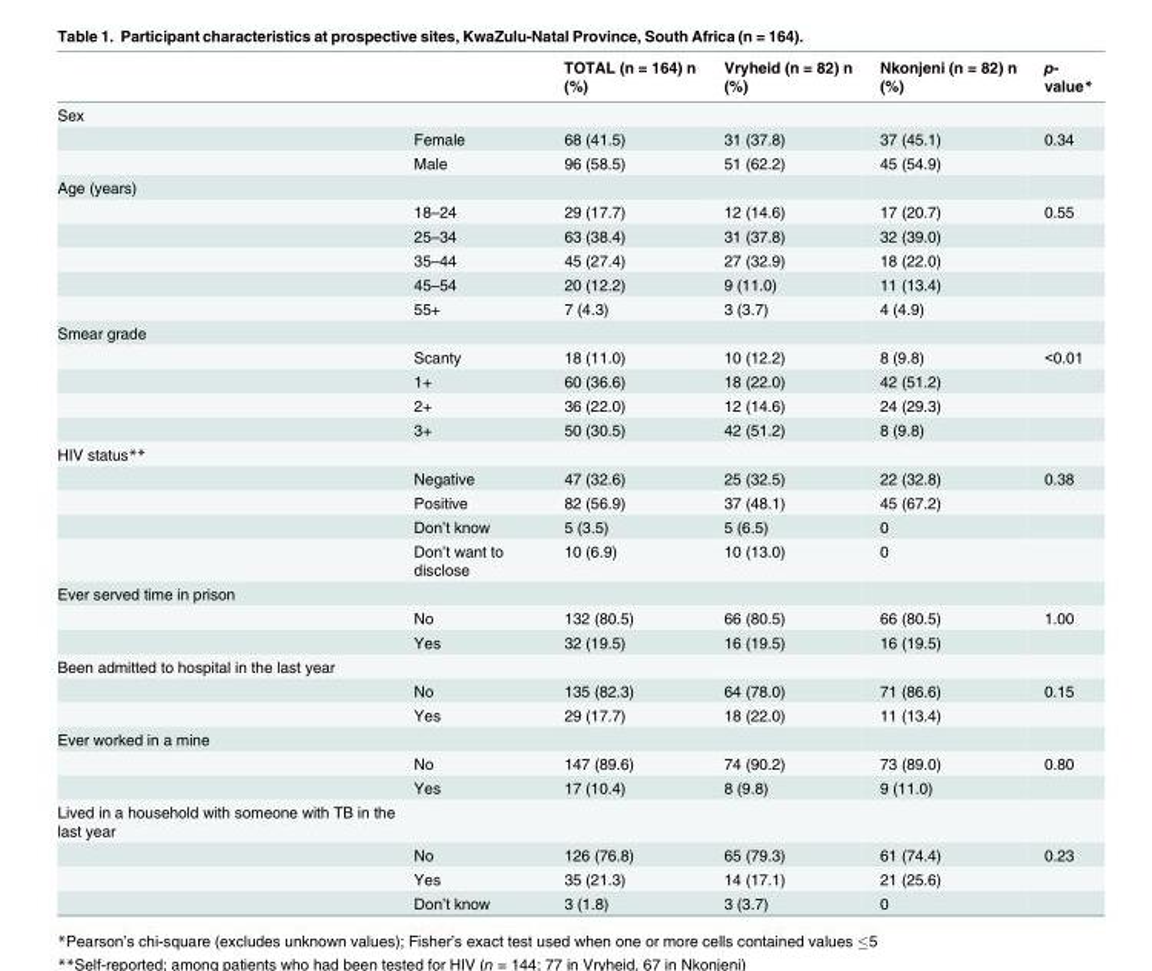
<table><thead><tr><td></td><td></td><td>TOTAL (n = 164) n (%)</td><td>Vryheid (n = 82) n (%)</td><td>Nkonjeni (n = 82) n (%)</td><td>p- value*</td></tr></thead><tbody><tr><td colspan="6">Sex</td></tr><tr><td></td><td>Female</td><td>68 (41.5)</td><td>31 (37.8)</td><td>37 (45.1)</td><td>0.34</td></tr><tr><td></td><td>Male</td><td>96 (58.5)</td><td>51 (62.2)</td><td>45 (54.9)</td><td></td></tr><tr><td colspan="6">Age (years)</td></tr><tr><td></td><td>18–24</td><td>29 (17.7)</td><td>12 (14.6)</td><td>17 (20.7)</td><td>0.55</td></tr><tr><td></td><td>25–34</td><td>63 (38.4)</td><td>31 (37.8)</td><td>32 (39.0)</td><td></td></tr><tr><td></td><td>35–44</td><td>45 (27.4)</td><td>27 (32.9)</td><td>18 (22.0)</td><td></td></tr><tr><td></td><td>45–54</td><td>20 (12.2)</td><td>9 (11.0)</td><td>11 (13.4)</td><td></td></tr><tr><td></td><td>55+</td><td>7 (4.3)</td><td>3 (3.7)</td><td>4 (4.9)</td><td></td></tr><tr><td colspan="6">Smear grade</td></tr><tr><td></td><td>Scanty</td><td>18 (11.0)</td><td>10 (12.2)</td><td>8 (9.8)</td><td>&lt;0.01</td></tr><tr><td></td><td>1+</td><td>60 (36.6)</td><td>18 (22.0)</td><td>42 (51.2)</td><td></td></tr><tr><td></td><td>2+</td><td>36 (22.0)</td><td>12 (14.6)</td><td>24 (29.3)</td><td></td></tr><tr><td></td><td>3+</td><td>50 (30.5)</td><td>42 (51.2)</td><td>8 (9.8)</td><td></td></tr><tr><td colspan="6">HIV status**</td></tr><tr><td></td><td>Negative</td><td>47 (32.6)</td><td>25 (32.5)</td><td>22 (32.8)</td><td>0.38</td></tr><tr><td></td><td>Positive</td><td>82 (56.9)</td><td>37 (48.1)</td><td>45 (67.2)</td><td></td></tr><tr><td></td><td>Don’t know</td><td>5 (3.5)</td><td>5 (6.5)</td><td>0</td><td></td></tr><tr><td></td><td>Don’t want to disclose</td><td>10 (6.9)</td><td>10 (13.0)</td><td>0</td><td></td></tr><tr><td colspan="6">Ever served time in prison</td></tr><tr><td></td><td>No</td><td>132 (80.5)</td><td>66 (80.5)</td><td>66 (80.5)</td><td>1.00</td></tr><tr><td></td><td>Yes</td><td>32 (19.5)</td><td>16 (19.5)</td><td>16 (19.5)</td><td></td></tr><tr><td colspan="6">Been admitted to hospital in the last year</td></tr><tr><td></td><td>No</td><td>135 (82.3)</td><td>64 (78.0)</td><td>71 (86.6)</td><td>0.15</td></tr><tr><td></td><td>Yes</td><td>29 (17.7)</td><td>18 (22.0)</td><td>11 (13.4)</td><td></td></tr><tr><td colspan="6">Ever worked in a mine</td></tr><tr><td></td><td>No</td><td>147 (89.6)</td><td>74 (90.2)</td><td>73 (89.0)</td><td>0.80</td></tr><tr><td></td><td>Yes</td><td>17 (10.4)</td><td>8 (9.8)</td><td>9 (11.0)</td><td></td></tr><tr><td colspan="6">Lived in a household with someone with TB in the last year</td></tr><tr><td></td><td>No</td><td>126 (76.8)</td><td>65 (79.3)</td><td>61 (74.4)</td><td>0.23</td></tr><tr><td></td><td>Yes</td><td>35 (21.3)</td><td>14 (17.1)</td><td>21 (25.6)</td><td></td></tr><tr><td></td><td>Don’t know</td><td>3 (1.8)</td><td>3 (3.7)</td><td>0</td><td></td></tr></tbody></table>